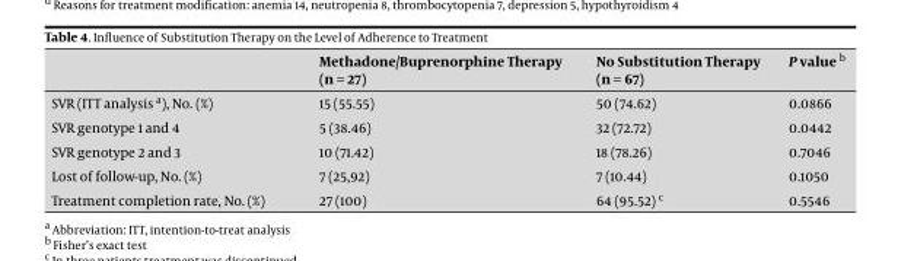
<table><thead><tr><td></td><td>Methadone/Buprenorphine Therapy (n = 27)</td><td>No Substitution Therapy (n = 67)</td><td>P value b</td></tr></thead><tbody><tr><td>SVR (ITT analysis a), no. (%)</td><td>15 (55.55)</td><td>50 (74.62)</td><td>0.0866</td></tr><tr><td>SVR genotype 1 and 4</td><td>5 (38.46)</td><td>32 (72.72)</td><td>0.0442</td></tr><tr><td>SVR genotype 2 and 3</td><td>10 (71.42)</td><td>18 (78.26)</td><td>0.7046</td></tr><tr><td>Lost of follow-up, no. (%)</td><td>7 (25,92)</td><td>7 (10.44)</td><td>0.1050</td></tr><tr><td>Treatment completion rate, no. (%)</td><td>27 (100)</td><td>64 (95.52) c</td><td>0.5546</td></tr></tbody></table>